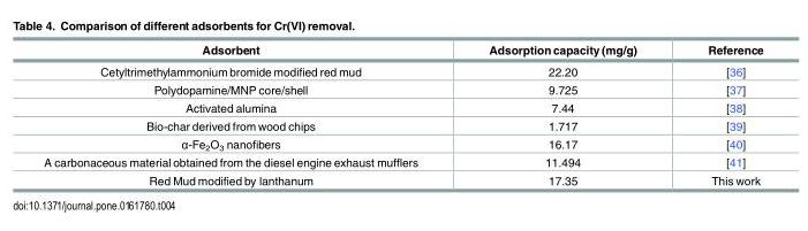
<table><thead><tr><td>Adsorbent</td><td>Adsorption capacity (mg/g)</td><td>Reference</td></tr></thead><tbody><tr><td>Cetyltrimethylammonium bromide modified red mud</td><td>22.20</td><td>[36]</td></tr><tr><td>Polydopamine/MNP core/shell</td><td>9.725</td><td>[37]</td></tr><tr><td>Activated alumina</td><td>7.44</td><td>[38]</td></tr><tr><td>Bio-char derived from wood chips</td><td>1.717</td><td>[39]</td></tr><tr><td>α-Fe<sub>2</sub>O<sub>3</sub> nanofibers</td><td>16.17</td><td>[40]</td></tr><tr><td>A carbonaceous material obtained from the diesel engine exhaust mufflers</td><td>11.494</td><td>[41]</td></tr><tr><td>Red Mud modified by lanthanum</td><td>17.35</td><td>This work</td></tr></tbody></table>